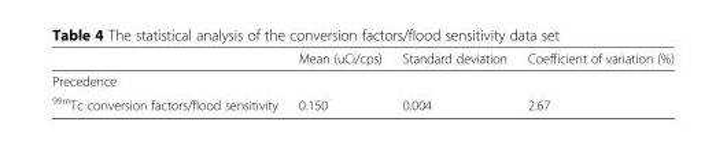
<table><thead><tr><td></td><td>Mean (uCi/cps)</td><td>Standard deviation</td><td>Coefficient of variation (%)</td></tr></thead><tbody><tr><td colspan="4">Precedence</td></tr><tr><td><sup>99m</sup>Tc conversion factors/flood sensitivity</td><td>0.150</td><td>0.004</td><td>2.67</td></tr></tbody></table>